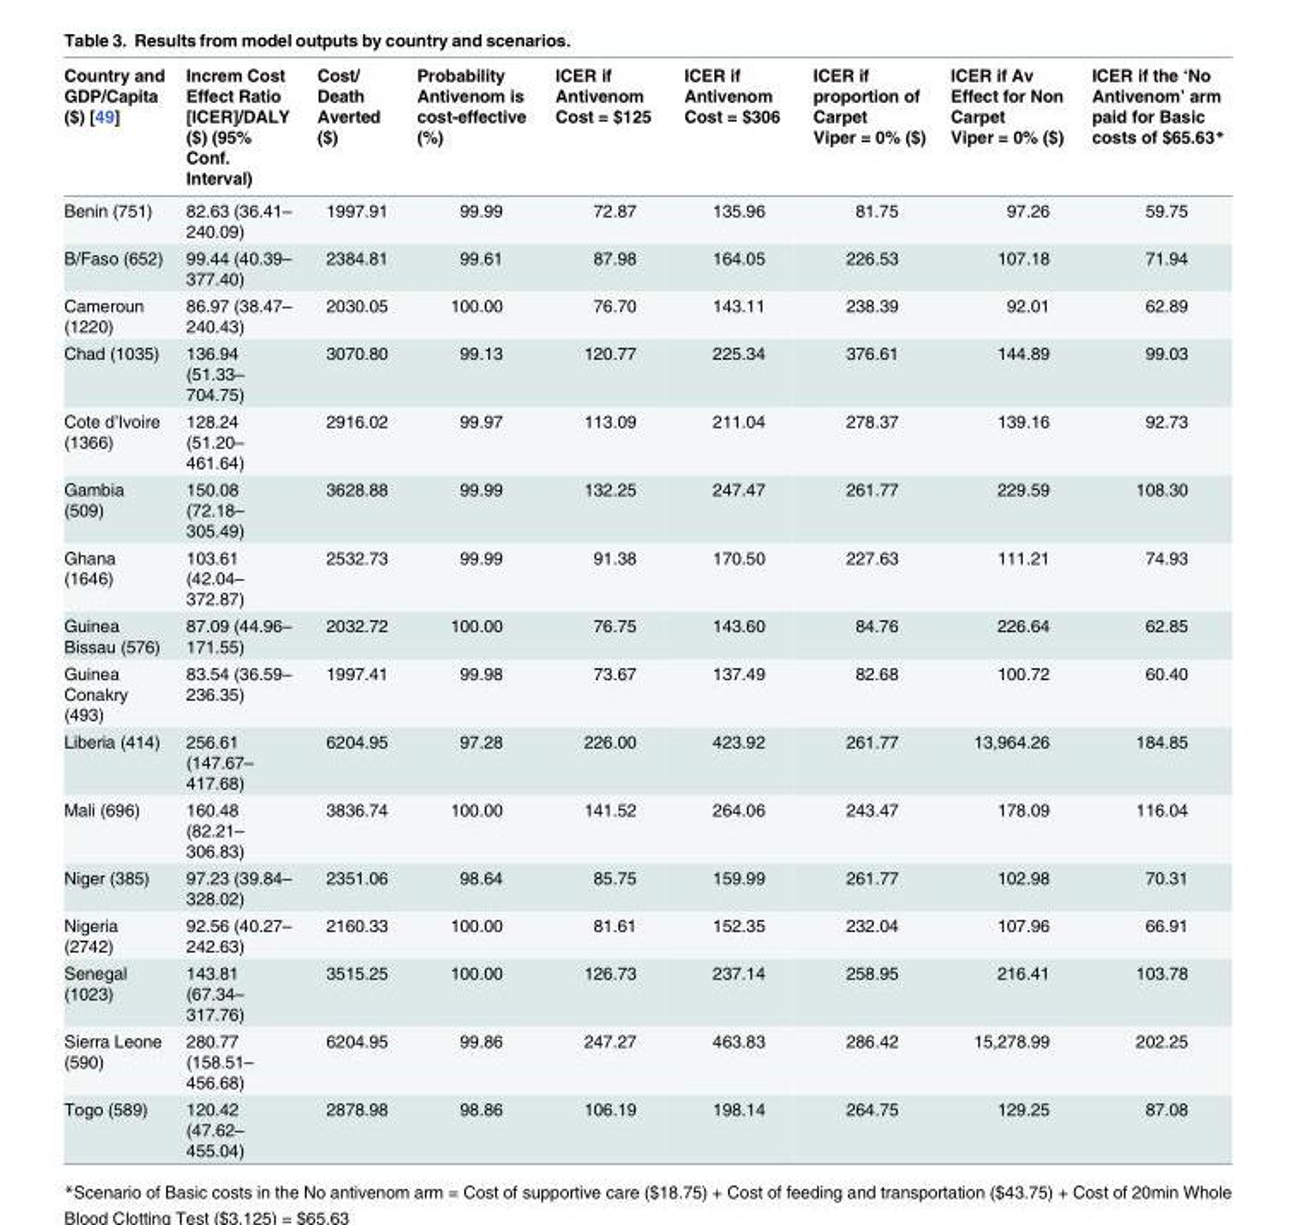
<table><thead><tr><td>Country and GDP/Capita ($) [49]</td><td>Increm Cost Effect Ratio [ICER]/DALY ($) (95% Conf. Interval)</td><td>Cost/ Death Averted ($)</td><td>Probability Antivenom is cost-effective (%)</td><td>ICER if Antivenom Cost = $125</td><td>ICER if Antivenom Cost = $306</td><td>ICER if proportion of Carpet Viper = 0% ($)</td><td>ICER if Av Effect for Non Carpet Viper = 0% ($)</td><td>ICER if the ‘No Antivenom’ arm paid for Basic costs of $65.63*</td></tr></thead><tbody><tr><td>Benin (751)</td><td>82.63 (36.41– 240.09)</td><td>1997.91</td><td>99.99</td><td>72.87</td><td>135.96</td><td>81.75</td><td>97.26</td><td>59.75</td></tr><tr><td>B/Faso (652)</td><td>99.44 (40.39– 377.40)</td><td>2384.81</td><td>99.61</td><td>87.98</td><td>164.05</td><td>226.53</td><td>107.18</td><td>71.94</td></tr><tr><td>Cameroun (1220)</td><td>86.97 (38.47– 240.43)</td><td>2030.05</td><td>100.00</td><td>76.70</td><td>143.11</td><td>238.39</td><td>92.01</td><td>62.89</td></tr><tr><td>Chad (1035)</td><td>136.94 (51.33– 704.75)</td><td>3070.80</td><td>99.13</td><td>120.77</td><td>225.34</td><td>376.61</td><td>144.89</td><td>99.03</td></tr><tr><td>Cote d’Ivoire (1366)</td><td>128.24 (51.20– 461.64)</td><td>2916.02</td><td>99.97</td><td>113.09</td><td>211.04</td><td>278.37</td><td>139.16</td><td>92.73</td></tr><tr><td>Gambia (509)</td><td>150.08 (72.18– 305.49)</td><td>3628.88</td><td>99.99</td><td>132.25</td><td>247.47</td><td>261.77</td><td>229.59</td><td>108.30</td></tr><tr><td>Ghana (1646)</td><td>103.61 (42.04– 372.87)</td><td>2532.73</td><td>99.99</td><td>91.38</td><td>170.50</td><td>227.63</td><td>111.21</td><td>74.93</td></tr><tr><td>Guinea Bissau (576)</td><td>87.09 (44.96– 171.55)</td><td>2032.72</td><td>100.00</td><td>76.75</td><td>143.60</td><td>84.76</td><td>226.64</td><td>62.85</td></tr><tr><td>Guinea Conakry (493)</td><td>83.54 (36.59– 236.35)</td><td>1997.41</td><td>99.98</td><td>73.67</td><td>137.49</td><td>82.68</td><td>100.72</td><td>60.40</td></tr><tr><td>Liberia (414)</td><td>256.61 (147.67– 417.68)</td><td>6204.95</td><td>97.28</td><td>226.00</td><td>423.92</td><td>261.77</td><td>13,964.26</td><td>184.85</td></tr><tr><td>Mali (696)</td><td>160.48 (82.21– 306.83)</td><td>3836.74</td><td>100.00</td><td>141.52</td><td>264.06</td><td>243.47</td><td>178.09</td><td>116.04</td></tr><tr><td>Niger (385)</td><td>97.23 (39.84– 328.02)</td><td>2351.06</td><td>98.64</td><td>85.75</td><td>159.99</td><td>261.77</td><td>102.98</td><td>70.31</td></tr><tr><td>Nigeria (2742)</td><td>92.56 (40.27– 242.63)</td><td>2160.33</td><td>100.00</td><td>81.61</td><td>152.35</td><td>232.04</td><td>107.96</td><td>66.91</td></tr><tr><td>Senegal (1023)</td><td>143.81 (67.34– 317.76)</td><td>3515.25</td><td>100.00</td><td>126.73</td><td>237.14</td><td>258.95</td><td>216.41</td><td>103.78</td></tr><tr><td>Sierra Leone (590)</td><td>280.77 (158.51– 456.68)</td><td>6204.95</td><td>99.86</td><td>247.27</td><td>463.83</td><td>286.42</td><td>15,278.99</td><td>202.25</td></tr><tr><td>Togo (589)</td><td>120.42 (47.62– 455.04)</td><td>2878.98</td><td>98.86</td><td>106.19</td><td>198.14</td><td>264.75</td><td>129.25</td><td>87.08</td></tr></tbody></table>